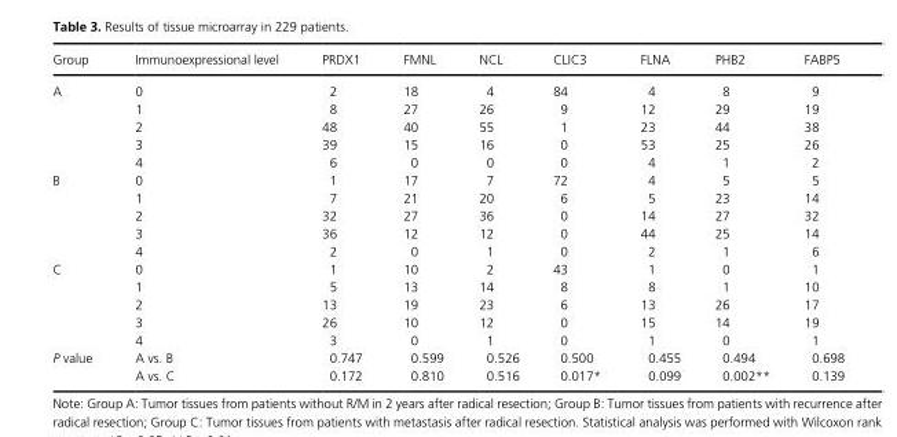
<table><thead><tr><td>Group</td><td>Immunoexpressional level</td><td>PRDX1</td><td>FMNL</td><td>NCL</td><td>CLIC3</td><td>FLNA</td><td>PHB2</td><td>FABP5</td></tr></thead><tbody><tr><td rowspan="5">A</td><td>0</td><td>2</td><td>18</td><td>4</td><td>84</td><td>4</td><td>8</td><td>9</td></tr><tr><td>1</td><td>8</td><td>27</td><td>26</td><td>9</td><td>12</td><td>29</td><td>19</td></tr><tr><td>2</td><td>48</td><td>40</td><td>55</td><td>1</td><td>23</td><td>44</td><td>38</td></tr><tr><td>3</td><td>39</td><td>15</td><td>16</td><td>0</td><td>53</td><td>25</td><td>26</td></tr><tr><td>4</td><td>6</td><td>0</td><td>0</td><td>0</td><td>4</td><td>1</td><td>2</td></tr><tr><td rowspan="5">B</td><td>0</td><td>1</td><td>17</td><td>7</td><td>72</td><td>4</td><td>5</td><td>5</td></tr><tr><td>1</td><td>7</td><td>21</td><td>20</td><td>6</td><td>5</td><td>23</td><td>14</td></tr><tr><td>2</td><td>32</td><td>27</td><td>36</td><td>0</td><td>14</td><td>27</td><td>32</td></tr><tr><td>3</td><td>36</td><td>12</td><td>12</td><td>0</td><td>44</td><td>25</td><td>14</td></tr><tr><td>4</td><td>2</td><td>0</td><td>1</td><td>0</td><td>2</td><td>1</td><td>6</td></tr><tr><td rowspan="5">C</td><td>0</td><td>1</td><td>10</td><td>2</td><td>43</td><td>1</td><td>0</td><td>1</td></tr><tr><td>1</td><td>5</td><td>13</td><td>14</td><td>8</td><td>8</td><td>1</td><td>10</td></tr><tr><td>2</td><td>13</td><td>19</td><td>23</td><td>6</td><td>13</td><td>26</td><td>17</td></tr><tr><td>3</td><td>26</td><td>10</td><td>12</td><td>0</td><td>15</td><td>14</td><td>19</td></tr><tr><td>4</td><td>3</td><td>0</td><td>1</td><td>0</td><td>1</td><td>0</td><td>1</td></tr><tr><td rowspan="2">P value</td><td>A vs. B</td><td>0.747</td><td>0.599</td><td>0.526</td><td>0.500</td><td>0.455</td><td>0.494</td><td>0.698</td></tr><tr><td>A vs. C</td><td>0.172</td><td>0.810</td><td>0.516</td><td>0.017*</td><td>0.099</td><td>0.002**</td><td>0.139</td></tr></tbody></table>